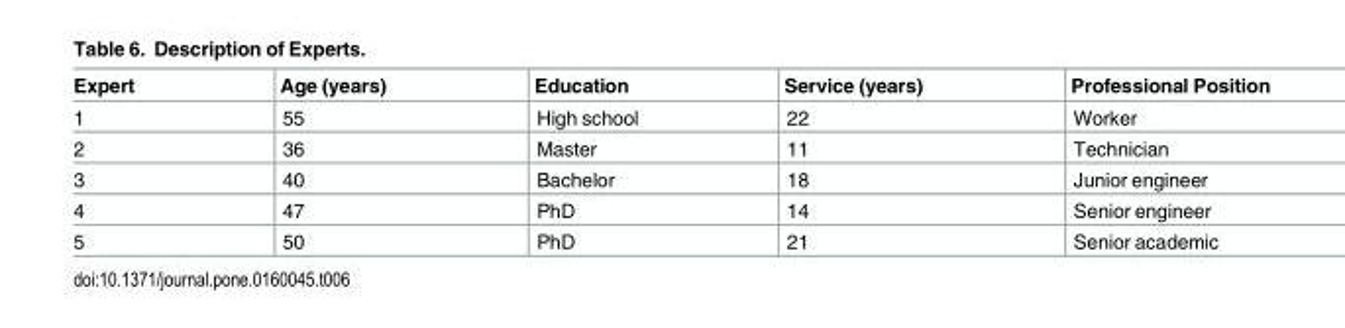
<table><thead><tr><td>Expert</td><td>Age (years)</td><td>Education</td><td>Service (years)</td><td>Professional Position</td></tr></thead><tbody><tr><td>1</td><td>55</td><td>High school</td><td>22</td><td>Worker</td></tr><tr><td>2</td><td>36</td><td>Master</td><td>11</td><td>Technician</td></tr><tr><td>3</td><td>40</td><td>Bachelor</td><td>18</td><td>Junior engineer</td></tr><tr><td>4</td><td>47</td><td>PhD</td><td>14</td><td>Senior engineer</td></tr><tr><td>5</td><td>50</td><td>PhD</td><td>21</td><td>Senior academic</td></tr></tbody></table>